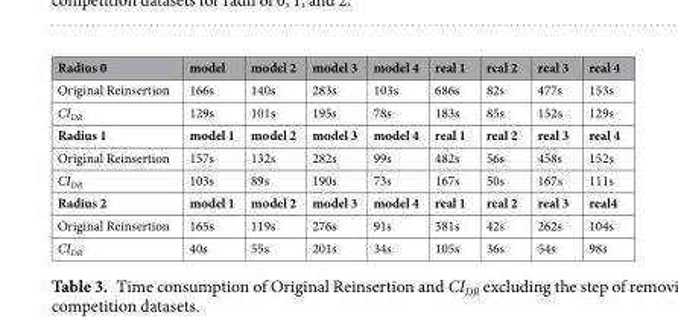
<table><thead><tr><td>Radius 0</td><td>model</td><td>model 2</td><td>model 3</td><td>model 4</td><td>real 1</td><td>real 2</td><td>real 3</td><td>real 4</td></tr></thead><tbody><tr><td>Original Reinsertion</td><td>166s</td><td>140s</td><td>283s</td><td>103s</td><td>686s</td><td>82s</td><td>477s</td><td>153s</td></tr><tr><td>CI<sub>DR</sub></td><td>129s</td><td>101s</td><td>195s</td><td>78s</td><td>183s</td><td>85s</td><td>152s</td><td>129s</td></tr><tr><td>Radius 1</td><td>model 1</td><td>model 2</td><td>model 3</td><td>model 4</td><td>real 1</td><td>real 2</td><td>real 3</td><td>real 4</td></tr><tr><td>Original Reinsertion</td><td>157s</td><td>132s</td><td>282s</td><td>99s</td><td>482s</td><td>56s</td><td>458s</td><td>152s</td></tr><tr><td>CI<sub>DR</sub></td><td>103s</td><td>89s</td><td>190s</td><td>73s</td><td>167s</td><td>50s</td><td>167s</td><td>111s</td></tr><tr><td>Radius 2</td><td>model 1</td><td>model 2</td><td>model 3</td><td>model 4</td><td>real 1</td><td>real 2</td><td>real 3</td><td>real4</td></tr><tr><td>Original Reinsertion</td><td>165s</td><td>119s</td><td>276s</td><td>91s</td><td>381s</td><td>42s</td><td>262s</td><td>104s</td></tr><tr><td>CI<sub>DR</sub></td><td>40s</td><td>55s</td><td>201s</td><td>34s</td><td>105s</td><td>36s</td><td>54s</td><td>98s</td></tr></tbody></table>